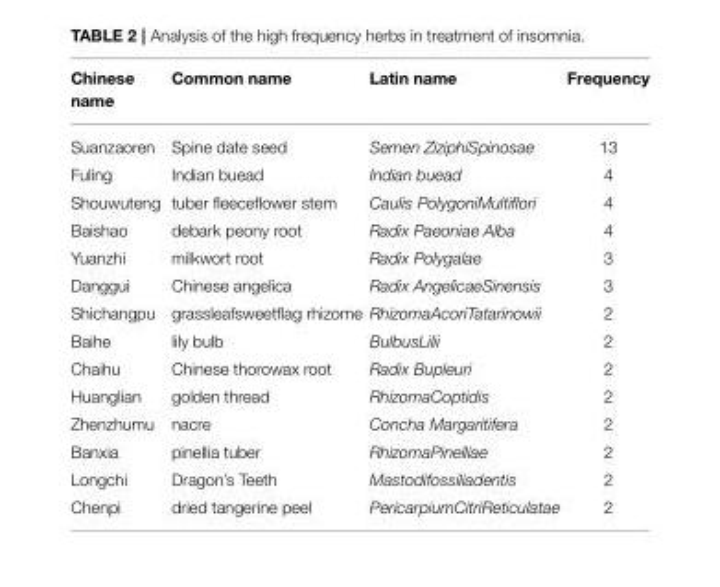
<table><thead><tr><td>Chinese name</td><td>Common name</td><td>Latin name</td><td>Frequency</td></tr></thead><tbody><tr><td>Suanzaoren</td><td>Spine date seed</td><td>Semen ZiziphiSpinosae</td><td>13</td></tr><tr><td>Fuling</td><td>Indian buead</td><td>Indian buead</td><td>4</td></tr><tr><td>Shouwuteng</td><td>tuber fleeceflower stem</td><td>Caulis PolygoniMultiflori</td><td>4</td></tr><tr><td>Baishao</td><td>debark peony root</td><td>Radix Paeoniae Alba</td><td>4</td></tr><tr><td>Yuanzhi</td><td>milkwort root</td><td>Radix Polygalae</td><td>3</td></tr><tr><td>Danggui</td><td>Chinese angelica</td><td>Radix AngelicaeSinensis</td><td>3</td></tr><tr><td>Shichangpu</td><td>grassleafsweetflag rhizome</td><td>RhizomaAcoriTatarinowii</td><td>2</td></tr><tr><td>Baihe</td><td>lily bulb</td><td>BulbusLilii</td><td>2</td></tr><tr><td>Chaihu</td><td>Chinese thorowax root</td><td>Radix Bupleuri</td><td>2</td></tr><tr><td>Huanglian</td><td>golden thread</td><td>RhizomaCoptidis</td><td>2</td></tr><tr><td>Zhenzhumu</td><td>nacre</td><td>Concha Margaritifera</td><td>2</td></tr><tr><td>Banxia</td><td>pinellia tuber</td><td>RhizomaPinelliae</td><td>2</td></tr><tr><td>Longchi</td><td>Dragon’s Teeth</td><td>Mastodifossiliadentis</td><td>2</td></tr><tr><td>Chenpi</td><td>dried tangerine peel</td><td>PericarpiumCitriReticulatae</td><td>2</td></tr></tbody></table>